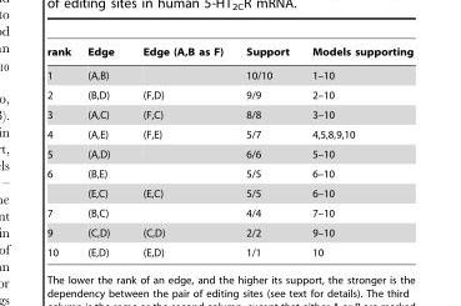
<table><thead><tr><td>rank</td><td>Edge</td><td>Edge (A,B as F)</td><td>Support</td><td>Models supporting</td></tr></thead><tbody><tr><td>1</td><td>(A,B)</td><td></td><td>10/10</td><td>1–10</td></tr><tr><td>2</td><td>(B,D)</td><td>(F,D)</td><td>9/9</td><td>2–10</td></tr><tr><td>3</td><td>(A,C)</td><td>(F,C)</td><td>8/8</td><td>3–10</td></tr><tr><td>4</td><td>(A,E)</td><td>(F,E)</td><td>5/7</td><td>4,5,8,9,10</td></tr><tr><td>5</td><td>(A,D)</td><td></td><td>6/6</td><td>5–10</td></tr><tr><td rowspan="2">6</td><td>(B,E)</td><td></td><td>5/5</td><td>6–10</td></tr><tr><td>(E,C)</td><td>(E,C)</td><td>5/5</td><td>6–10</td></tr><tr><td>7</td><td>(B,C)</td><td></td><td>4/4</td><td>7–10</td></tr><tr><td>9</td><td>(C,D)</td><td>(C,D)</td><td>2/2</td><td>9–10</td></tr><tr><td>10</td><td>(E,D)</td><td>(E,D)</td><td>1/1</td><td>10</td></tr></tbody></table>